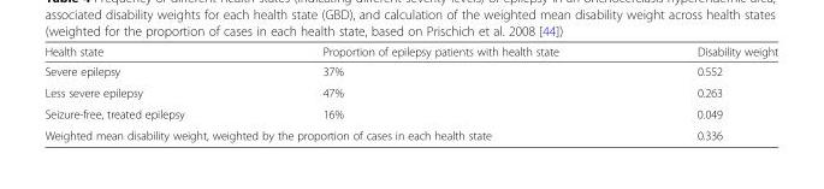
<table><thead><tr><td>Health state</td><td>Proportion of epilepsy patients with health state</td><td>Disability weight</td></tr></thead><tbody><tr><td>Severe epilepsy</td><td>37%</td><td>0.552</td></tr><tr><td>Less severe epilepsy</td><td>47%</td><td>0.263</td></tr><tr><td>Seizure-free, treated epilepsy</td><td>16%</td><td>0.049</td></tr><tr><td colspan="2">Weighted mean disability weight, weighted by the proportion of cases in each health state</td><td>0.336</td></tr></tbody></table>